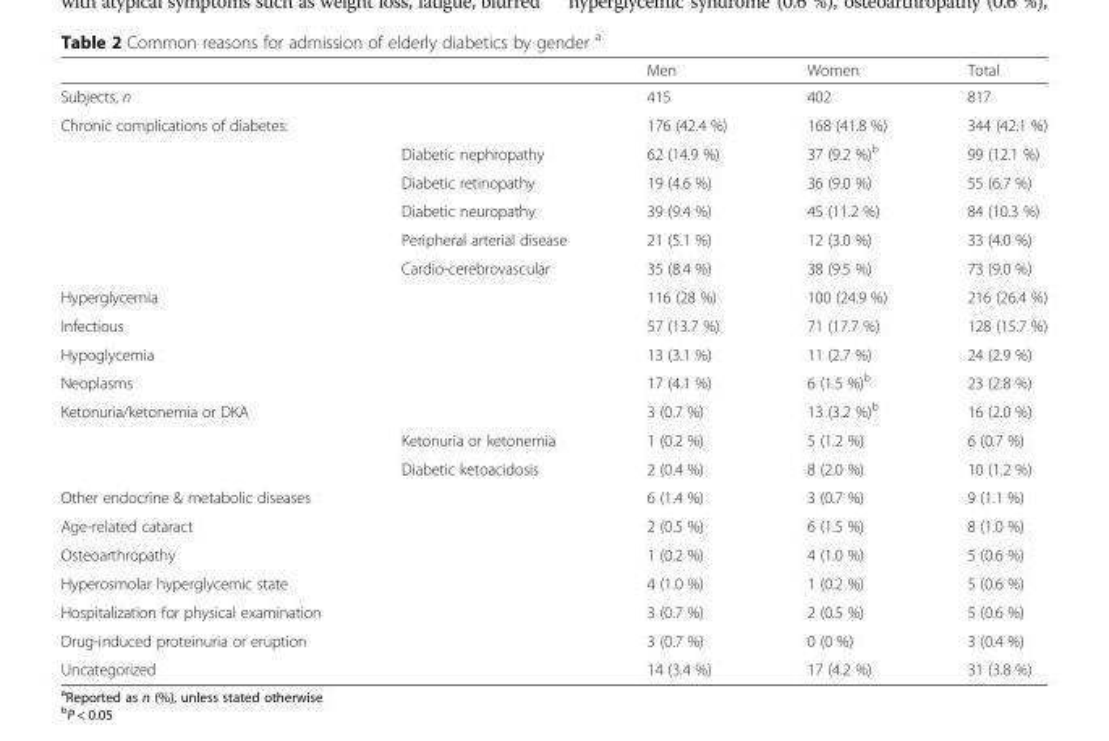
<table><thead><tr><td></td><td></td><td>Men</td><td>Women</td><td>Total</td></tr></thead><tbody><tr><td>Subjects, n</td><td></td><td>415</td><td>402</td><td>817</td></tr><tr><td rowspan="6">Chronic complications of diabetes:</td><td></td><td>176 (42.4 %)</td><td>168 (41.8 %)</td><td>344 (42.1 %)</td></tr><tr><td>Diabetic nephropathy</td><td>62 (14.9 %)</td><td>37 (9.2 %)<sup>b</sup></td><td>99 (12.1 %)</td></tr><tr><td>Diabetic retinopathy</td><td>19 (4.6 %)</td><td>36 (9.0 %)</td><td>55 (6.7 %)</td></tr><tr><td>Diabetic neuropathy</td><td>39 (9.4 %)</td><td>45 (11.2 %)</td><td>84 (10.3 %)</td></tr><tr><td>Peripheral arterial disease</td><td>21 (5.1 %)</td><td>12 (3.0 %)</td><td>33 (4.0 %)</td></tr><tr><td>Cardio-cerebrovascular</td><td>35 (8.4 %)</td><td>38 (9.5 %)</td><td>73 (9.0 %)</td></tr><tr><td>Hyperglycemia</td><td></td><td>116 (28 %)</td><td>100 (24.9 %)</td><td>216 (26.4 %)</td></tr><tr><td>Infectious</td><td></td><td>57 (13.7 %)</td><td>71 (17.7 %)</td><td>128 (15.7 %)</td></tr><tr><td>Hypoglycemia</td><td></td><td>13 (3.1 %)</td><td>11 (2.7 %)</td><td>24 (2.9 %)</td></tr><tr><td>Neoplasms</td><td></td><td>17 (4.1 %)</td><td>6 (1.5 %)<sup>b</sup></td><td>23 (2.8 %)</td></tr><tr><td rowspan="3">Ketonuria/ketonemia or DKA</td><td></td><td>3 (0.7 %)</td><td>13 (3.2 %)<sup>b</sup></td><td>16 (2.0 %)</td></tr><tr><td>Ketonuria or ketonemia</td><td>1 (0.2 %)</td><td>5 (1.2 %)</td><td>6 (0.7 %)</td></tr><tr><td>Diabetic ketoacidosis</td><td>2 (0.4 %)</td><td>8 (2.0 %)</td><td>10 (1.2 %)</td></tr><tr><td>Other endocrine &amp; metabolic diseases</td><td></td><td>6 (1.4 %)</td><td>3 (0.7 %)</td><td>9 (1.1 %)</td></tr><tr><td>Age-related cataract</td><td></td><td>2 (0.5 %)</td><td>6 (1.5 %)</td><td>8 (1.0 %)</td></tr><tr><td>Osteoarthropathy</td><td></td><td>1 (0.2 %)</td><td>4 (1.0 %)</td><td>5 (0.6 %)</td></tr><tr><td>Hyperosmolar hyperglycemic state</td><td></td><td>4 (1.0 %)</td><td>1 (0.2 %)</td><td>5 (0.6 %)</td></tr><tr><td>Hospitalization for physical examination</td><td></td><td>3 (0.7 %)</td><td>2 (0.5 %)</td><td>5 (0.6 %)</td></tr><tr><td>Drug-induced proteinuria or eruption</td><td></td><td>3 (0.7 %)</td><td>0 (0 %)</td><td>3 (0.4 %)</td></tr><tr><td>Uncategorized</td><td></td><td>14 (3.4 %)</td><td>17 (4.2 %)</td><td>31 (3.8 %)</td></tr></tbody></table>